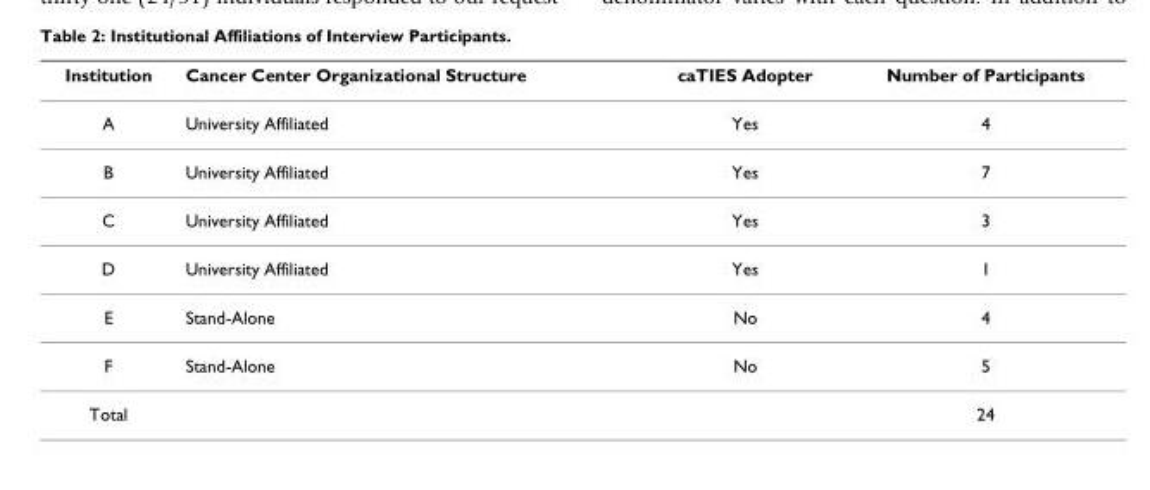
<table><thead><tr><td>Institution</td><td>Cancer Center Organizational Structure</td><td>caTIES Adopter</td><td>Number of Participants</td></tr></thead><tbody><tr><td>A</td><td>University Affiliated</td><td>Yes</td><td>4</td></tr><tr><td>B</td><td>University Affiliated</td><td>Yes</td><td>7</td></tr><tr><td>C</td><td>University Affiliated</td><td>Yes</td><td>3</td></tr><tr><td>D</td><td>University Affiliated</td><td>Yes</td><td>1</td></tr><tr><td>E</td><td>Stand-Alone</td><td>No</td><td>4</td></tr><tr><td>F</td><td>Stand-Alone</td><td>No</td><td>5</td></tr><tr><td>Total</td><td></td><td></td><td>24</td></tr></tbody></table>